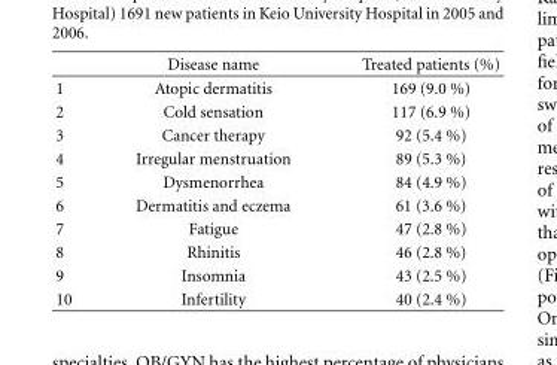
<table><thead><tr><td></td><td>Disease name</td><td>Treated patients (%)</td></tr></thead><tbody><tr><td>1</td><td>Atopic dermatitis</td><td>169 (9.0 %)</td></tr><tr><td>2</td><td>Cold sensation</td><td>117 (6.9 %)</td></tr><tr><td>3</td><td>Cancer therapy</td><td>92 (5.4 %)</td></tr><tr><td>4</td><td>Irregular menstruation</td><td>89 (5.3 %)</td></tr><tr><td>5</td><td>Dysmenorrhea</td><td>84 (4.9 %)</td></tr><tr><td>6</td><td>Dermatitis and eczema</td><td>61 (3.6 %)</td></tr><tr><td>7</td><td>Fatigue</td><td>47 (2.8 %)</td></tr><tr><td>8</td><td>Rhinitis</td><td>46 (2.8 %)</td></tr><tr><td>9</td><td>Insomnia</td><td>43 (2.5 %)</td></tr><tr><td>10</td><td>Infertility</td><td>40 (2.4 %)</td></tr></tbody></table>